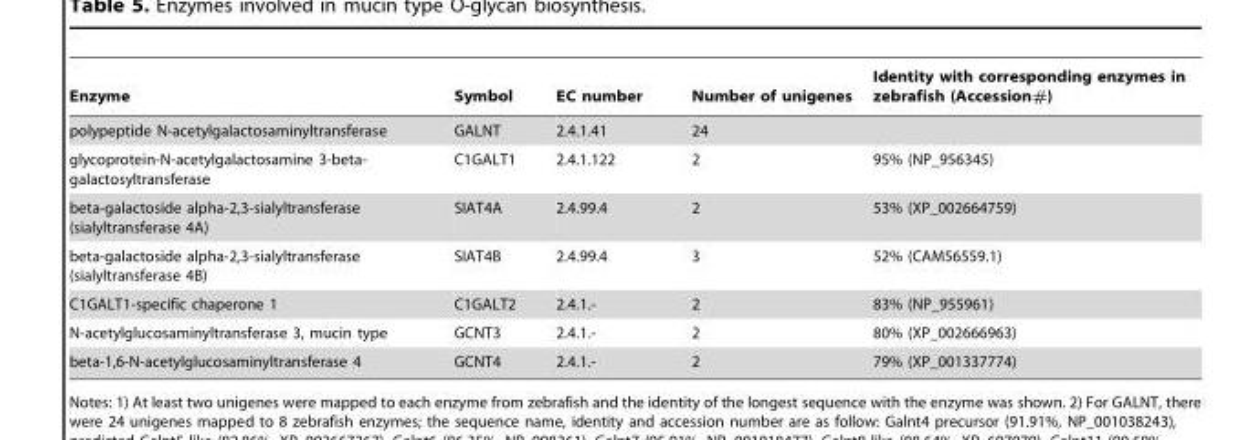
<table><thead><tr><td>Enzyme</td><td>Symbol</td><td>EC number</td><td>Number of unigenes</td><td>Identity with corresponding enzymes in zebrafish (Accession#)</td></tr></thead><tbody><tr><td>polypeptide N-acetylgalactosaminyltransferase</td><td>GALNT</td><td>2.4.1.41</td><td>24</td><td></td></tr><tr><td>glycoprotein-N-acetylgalactosamine 3-beta- galactosyltransferase</td><td>C1GALT1</td><td>2.4.1.122</td><td>2</td><td>95% (NP_956345)</td></tr><tr><td>beta-galactoside alpha-2,3-sialyltransferase (sialyltransferase 4A)</td><td>SIAT4A</td><td>2.4.99.4</td><td>2</td><td>53% (XP_002664759)</td></tr><tr><td>beta-galactoside alpha-2,3-sialyltransferase (sialyltransferase 4B)</td><td>SIAT4B</td><td>2.4.99.4</td><td>3</td><td>52% (CAM56559.1)</td></tr><tr><td>C1GALT1-specific chaperone 1</td><td>C1GALT2</td><td>2.4.1.-</td><td>2</td><td>83% (NP_955961)</td></tr><tr><td>N-acetylglucosaminyltransferase 3, mucin type</td><td>GCNT3</td><td>2.4.1.-</td><td>2</td><td>80% (XP_002666963)</td></tr><tr><td>beta-1,6-N-acetylglucosaminyltransferase 4</td><td>GCNT4</td><td>2.4.1.-</td><td>2</td><td>79% (XP_001337774)</td></tr></tbody></table>